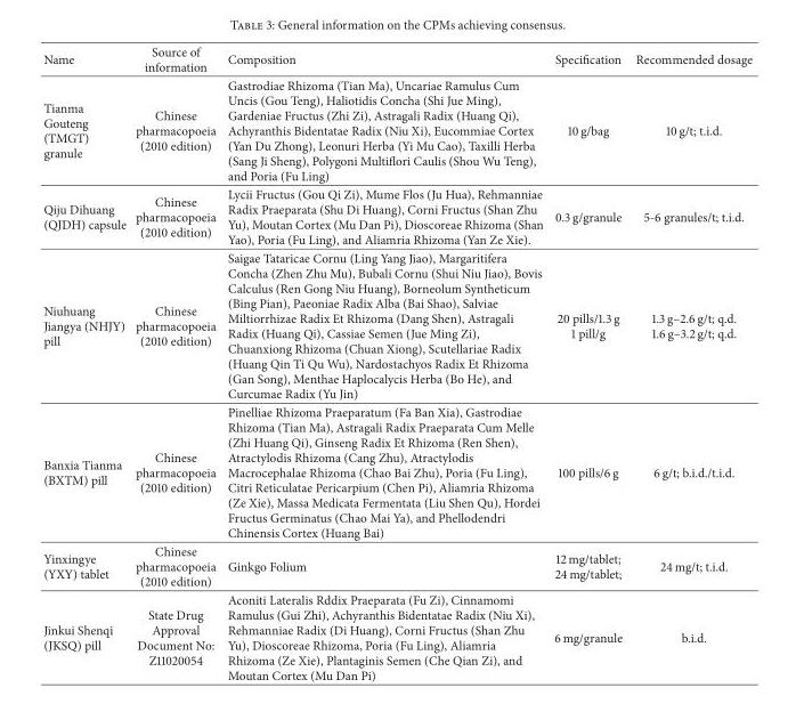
<table><thead><tr><td>Name</td><td>Source of information</td><td>Composition</td><td>Specification</td><td>Recommended dosage</td></tr></thead><tbody><tr><td>Tianma Gouteng (TMGT) granule</td><td>Chinese pharmacopoeia (2010 edition)</td><td>Gastrodiae Rhizoma (Tian Ma), Uncariae Ramulus Cum Uncis (Gou Teng), Haliotidis Concha (Shi Jue Ming), Gardeniae Fructus (Zhi Zi), Astragali Radix (Huang Qi), Achyranthis Bidentatae Radix (Niu Xi), Eucommiae Cortex (Yan Du Zhong), Leonuri Herba (Yi Mu Cao), Taxilli Herba (Sang Ji Sheng), Polygoni Multiflori Caulis (Shou Wu Teng), and Poria (Fu Ling)</td><td>10 g/bag</td><td>10 g/t; t.i.d.</td></tr><tr><td>Qiju Dihuang (QJDH) capsule</td><td>Chinese pharmacopoeia (2010 edition)</td><td>Lycii Fructus (Gou Qi Zi), Mume Flos (Ju Hua), Rehmanniae Radix Praeparata (Shu Di Huang), Corni Fructus (Shan Zhu Yu), Moutan Cortex (Mu Dan Pi), Dioscoreae Rhizoma (Shan Yao), Poria (Fu Ling), and Aliamria Rhizoma (Yan Ze Xie).</td><td>0.3 g/granule</td><td>5-6 granules/t; t.i.d.</td></tr><tr><td>Niuhuang Jiangya (NHJY) pill</td><td>Chinese pharmacopoeia (2010 edition)</td><td>Saigae Tataricae Cornu (Ling Yang Jiao), Margaritifera Concha (Zhen Zhu Mu), Bubali Cornu (Shui Niu Jiao), Bovis Calculus (Ren Gong Niu Huang), Borneolum Syntheticum (Bing Pian), Paeoniae Radix Alba (Bai Shao), Salviae Miltiorrhizae Radix Et Rhizoma (Dang Shen), Astragali Radix (Huang Qi), Cassiae Semen (Jue Ming Zi), Chuanxiong Rhizoma (Chuan Xiong), Scutellariae Radix (Huang Qin Ti Qu Wu), Nardostachyos Radix Et Rhizoma (Gan Song), Menthae Haplocalycis Herba (Bo He), and Curcumae Radix (Yu Jin)</td><td>20 pills/1.3 g 1 pill/g</td><td>1.3 g–2.6 g/t; q.d. 1.6 g–3.2 g/t; q.d.</td></tr><tr><td>Banxia Tianma (BXTM) pill</td><td>Chinese pharmacopoeia (2010 edition)</td><td>Pinelliae Rhizoma Praeparatum (Fa Ban Xia), Gastrodiae Rhizoma (Tian Ma), Astragali Radix Praeparata Cum Melle (Zhi Huang Qi), Ginseng Radix Et Rhizoma (Ren Shen), Atractylodis Rhizoma (Cang Zhu), Atractylodis Macrocephalae Rhizoma (Chao Bai Zhu), Poria (Fu Ling), Citri Reticulatae Pericarpium (Chen Pi), Aliamria Rhizoma (Ze Xie), Massa Medicata Fermentata (Liu Shen Qu), Hordei Fructus Germinatus (Chao Mai Ya), and Phellodendri Chinensis Cortex (Huang Bai)</td><td>100 pills/6 g</td><td>6 g/t; b.i.d./t.i.d.</td></tr><tr><td>Yinxingye (YXY) tablet</td><td>Chinese pharmacopoeia (2010 edition)</td><td>Ginkgo Folium</td><td>12 mg/tablet; 24 mg/tablet;</td><td>24 mg/t; t.i.d.</td></tr><tr><td>Jinkui Shenqi (JKSQ) pill</td><td>State Drug Approval Document No: Z11020054</td><td>Aconiti Lateralis Rddix Praeparata (Fu Zi), Cinnamomi Ramulus (Gui Zhi), Achyranthis Bidentatae Radix (Niu Xi), Rehmanniae Radix (Di Huang), Corni Fructus (Shan Zhu Yu), Dioscoreae Rhizoma, Poria (Fu Ling), Aliamria Rhizoma (Ze Xie), Plantaginis Semen (Che Qian Zi), and Moutan Cortex (Mu Dan Pi)</td><td>6 mg/granule</td><td>b.i.d.</td></tr></tbody></table>